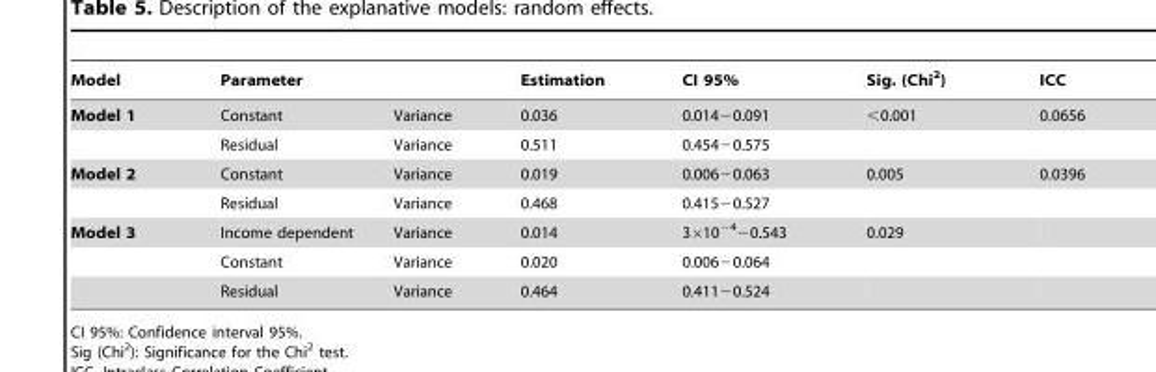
<table><thead><tr><td>Model</td><td>Parameter</td><td></td><td>Estimation</td><td>CI 95%</td><td>Sig. (Chi<sup>2</sup>)</td><td>ICC</td></tr></thead><tbody><tr><td rowspan="2">Model 1</td><td>Constant</td><td>Variance</td><td>0.036</td><td>0.014−0.091</td><td>&lt;0.001</td><td>0.0656</td></tr><tr><td>Residual</td><td>Variance</td><td>0.511</td><td>0.454−0.575</td><td></td><td></td></tr><tr><td rowspan="2">Model 2</td><td>Constant</td><td>Variance</td><td>0.019</td><td>0.006−0.063</td><td>0.005</td><td>0.0396</td></tr><tr><td>Residual</td><td>Variance</td><td>0.468</td><td>0.415−0.527</td><td></td><td></td></tr><tr><td rowspan="3">Model 3</td><td>Income dependent</td><td>Variance</td><td>0.014</td><td>3×10<sup>−4</sup>−0.543</td><td>0.029</td><td></td></tr><tr><td>Constant</td><td>Variance</td><td>0.020</td><td>0.006−0.064</td><td></td><td></td></tr><tr><td>Residual</td><td>Variance</td><td>0.464</td><td>0.411−0.524</td><td></td><td></td></tr></tbody></table>